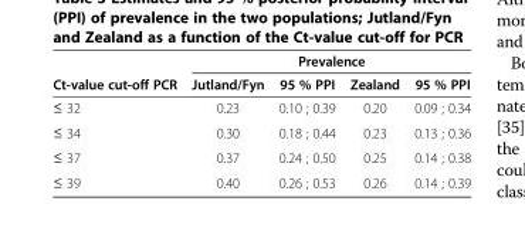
<table><thead><tr><td rowspan="2">Ct-value cut-off PCR</td><td colspan="4">Prevalence</td></tr><tr><td>Jutland/Fyn</td><td>95 % PPI</td><td>Zealand</td><td>95 % PPI</td></tr></thead><tbody><tr><td>≤ 32</td><td>0.23</td><td>0.10 ; 0.39</td><td>0.20</td><td>0.09 ; 0.34</td></tr><tr><td>≤ 34</td><td>0.30</td><td>0.18 ; 0.44</td><td>0.23</td><td>0.13 ; 0.36</td></tr><tr><td>≤ 37</td><td>0.37</td><td>0.24 ; 0.50</td><td>0.25</td><td>0.14 ; 0.38</td></tr><tr><td>≤ 39</td><td>0.40</td><td>0.26 ; 0.53</td><td>0.26</td><td>0.14 ; 0.39</td></tr></tbody></table>